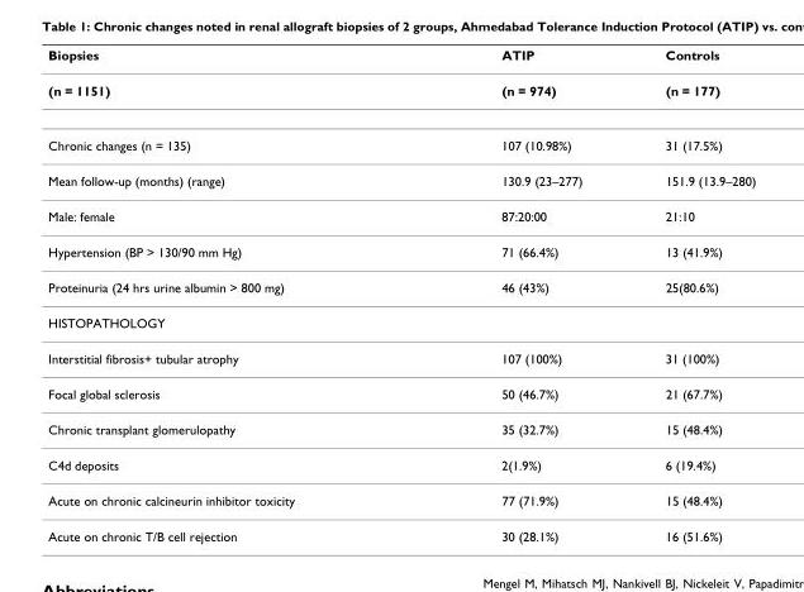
<table><thead><tr><td>Biopsies</td><td>ATIP</td><td>Controls</td></tr></thead><tbody><tr><td>(n = 1151)</td><td>(n = 974)</td><td>(n = 177)</td></tr><tr><td>Chronic changes (n = 135)</td><td>107 (10.98%)</td><td>31 (17.5%)</td></tr><tr><td>Mean follow-up (months) (range)</td><td>130.9 (23–277)</td><td>151.9 (13.9–280)</td></tr><tr><td>Male: female</td><td>87:20:00</td><td>21:10</td></tr><tr><td>Hypertension (BP &gt; 130/90 mm Hg)</td><td>71 (66.4%)</td><td>13 (41.9%)</td></tr><tr><td>Proteinuria (24 hrs urine albumin &gt; 800 mg)</td><td>46 (43%)</td><td>25(80.6%)</td></tr><tr><td colspan="3">HISTOPATHOLOGY</td></tr><tr><td>Interstitial fibrosis+ tubular atrophy</td><td>107 (100%)</td><td>31 (100%)</td></tr><tr><td>Focal global sclerosis</td><td>50 (46.7%)</td><td>21 (67.7%)</td></tr><tr><td>Chronic transplant glomerulopathy</td><td>35 (32.7%)</td><td>15 (48.4%)</td></tr><tr><td>C4d deposits</td><td>2(1.9%)</td><td>6 (19.4%)</td></tr><tr><td>Acute on chronic calcineurin inhibitor toxicity</td><td>77 (71.9%)</td><td>15 (48.4%)</td></tr><tr><td>Acute on chronic T/B cell rejection</td><td>30 (28.1%)</td><td>16 (51.6%)</td></tr></tbody></table>